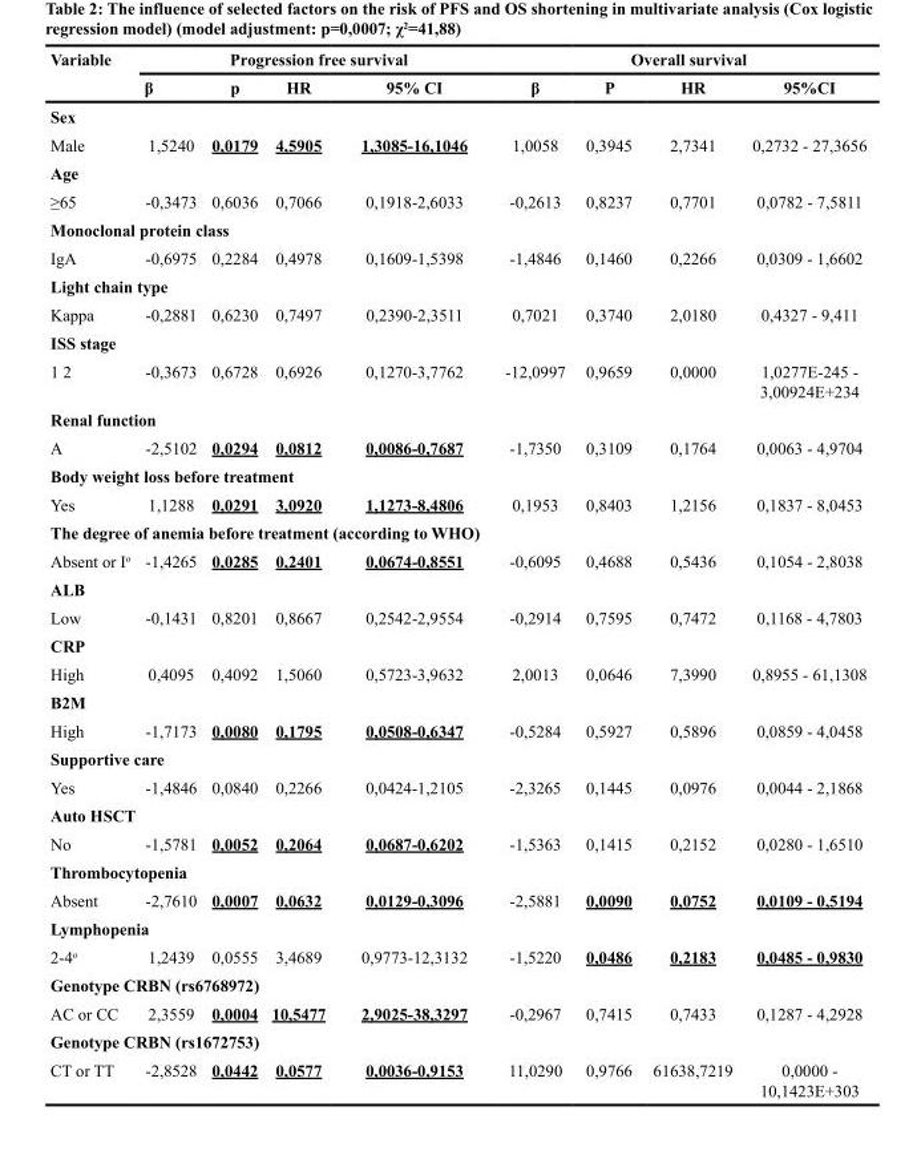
<table><thead><tr><td rowspan="2">Variable</td><td colspan="4">Progression free survival</td><td colspan="4">Overall survival</td></tr><tr><td>β</td><td>p</td><td>HR</td><td>95% CI</td><td>β</td><td>P</td><td>HR</td><td>95%CI</td></tr></thead><tbody><tr><td colspan="9">Sex</td></tr><tr><td>Male</td><td>1,5240</td><td>0,0179</td><td>4,5905</td><td>1,3085-16,1046</td><td>1,0058</td><td>0,3945</td><td>2,7341</td><td>0,2732 - 27,3656</td></tr><tr><td colspan="9">Age</td></tr><tr><td>≥65</td><td>-0,3473</td><td>0,6036</td><td>0,7066</td><td>0,1918-2,6033</td><td>-0,2613</td><td>0,8237</td><td>0,7701</td><td>0,0782 - 7,5811</td></tr><tr><td colspan="9">Monoclonal protein class</td></tr><tr><td>IgA</td><td>-0,6975</td><td>0,2284</td><td>0,4978</td><td>0,1609-1,5398</td><td>-1,4846</td><td>0,1460</td><td>0,2266</td><td>0,0309 - 1,6602</td></tr><tr><td colspan="9">Light chain type</td></tr><tr><td>Kappa</td><td>-0,2881</td><td>0,6230</td><td>0,7497</td><td>0,2390-2,3511</td><td>0,7021</td><td>0,3740</td><td>2,0180</td><td>0,4327 - 9,411</td></tr><tr><td colspan="9">ISS stage</td></tr><tr><td>1 2</td><td>-0,3673</td><td>0,6728</td><td>0,6926</td><td>0,1270-3,7762</td><td>-12,0997</td><td>0,9659</td><td>0,0000</td><td>1,0277E-245 - 3,00924E+234</td></tr><tr><td colspan="9">Renal function</td></tr><tr><td>A</td><td>-2,5102</td><td>0,0294</td><td>0,0812</td><td>0,0086-0,7687</td><td>-1,7350</td><td>0,3109</td><td>0,1764</td><td>0,0063 - 4,9704</td></tr><tr><td colspan="9">Body weight loss before treatment</td></tr><tr><td>Yes</td><td>1,1288</td><td>0,0291</td><td>3,0920</td><td>1,1273-8,4806</td><td>0,1953</td><td>0,8403</td><td>1,2156</td><td>0,1837 - 8,0453</td></tr><tr><td colspan="9">The degree of anemia before treatment (according to WHO)</td></tr><tr><td>Absent or I<sup>o</sup></td><td>-1,4265</td><td>0,0285</td><td>0,2401</td><td>0,0674-0,8551</td><td>-0,6095</td><td>0,4688</td><td>0,5436</td><td>0,1054 - 2,8038</td></tr><tr><td colspan="9">ALB</td></tr><tr><td>Low</td><td>-0,1431</td><td>0,8201</td><td>0,8667</td><td>0,2542-2,9554</td><td>-0,2914</td><td>0,7595</td><td>0,7472</td><td>0,1168 - 4,7803</td></tr><tr><td colspan="9">CRP</td></tr><tr><td>High</td><td>0,4095</td><td>0,4092</td><td>1,5060</td><td>0,5723-3,9632</td><td>2,0013</td><td>0,0646</td><td>7,3990</td><td>0,8955 - 61,1308</td></tr><tr><td colspan="9">B2M</td></tr><tr><td>High</td><td>-1,7173</td><td>0,0080</td><td>0,1795</td><td>0,0508-0,6347</td><td>-0,5284</td><td>0,5927</td><td>0,5896</td><td>0,0859 - 4,0458</td></tr><tr><td colspan="9">Supportive care</td></tr><tr><td>Yes</td><td>-1,4846</td><td>0,0840</td><td>0,2266</td><td>0,0424-1,2105</td><td>-2,3265</td><td>0,1445</td><td>0,0976</td><td>0,0044 - 2,1868</td></tr><tr><td colspan="9">Auto HSCT</td></tr><tr><td>No</td><td>-1,5781</td><td>0,0052</td><td>0,2064</td><td>0,0687-0,6202</td><td>-1,5363</td><td>0,1415</td><td>0,2152</td><td>0,0280 - 1,6510</td></tr><tr><td colspan="9">Thrombocytopenia</td></tr><tr><td>Absent</td><td>-2,7610</td><td>0,0007</td><td>0,0632</td><td>0,0129-0,3096</td><td>-2,5881</td><td>0,0090</td><td>0,0752</td><td>0,0109 - 0,5194</td></tr><tr><td colspan="9">Lymphopenia</td></tr><tr><td>2-4<sup>o</sup></td><td>1,2439</td><td>0,0555</td><td>3,4689</td><td>0,9773-12,3132</td><td>-1,5220</td><td>0,0486</td><td>0,2183</td><td>0,0485 - 0,9830</td></tr><tr><td colspan="9">Genotype CRBN (rs6768972)</td></tr><tr><td>AC or CC</td><td>2,3559</td><td>0,0004</td><td>10,5477</td><td>2,9025-38,3297</td><td>-0,2967</td><td>0,7415</td><td>0,7433</td><td>0,1287 - 4,2928</td></tr><tr><td colspan="9">Genotype CRBN (rs1672753)</td></tr><tr><td>CT or TT</td><td>-2,8528</td><td>0,0442</td><td>0,0577</td><td>0,0036-0,9153</td><td>11,0290</td><td>0,9766</td><td>61638,7219</td><td>0,0000 - 10,1423E+303</td></tr></tbody></table>